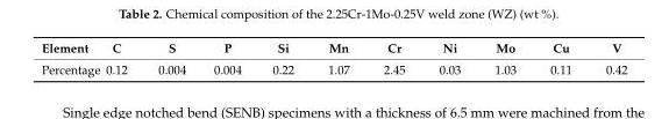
<table><thead><tr><td>Element</td><td>C</td><td>S</td><td>P</td><td>Si</td><td>Mn</td><td>Cr</td><td>Ni</td><td>Mo</td><td>Cu</td><td>V</td></tr></thead><tbody><tr><td>Percentage</td><td>0.12</td><td>0.004</td><td>0.004</td><td>0.22</td><td>1.07</td><td>2.45</td><td>0.03</td><td>1.03</td><td>0.11</td><td>0.42</td></tr></tbody></table>